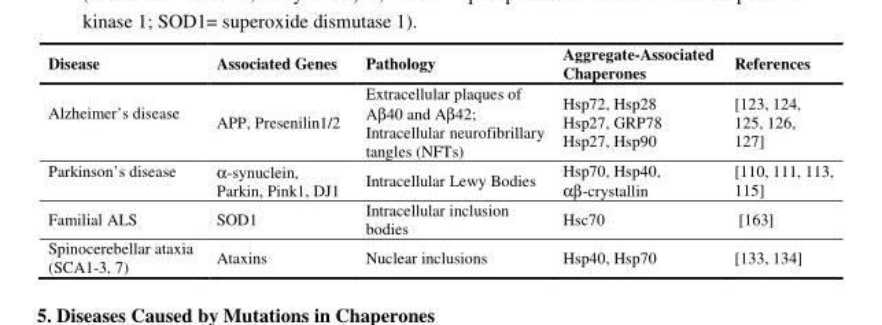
<table><thead><tr><td>Disease</td><td>Associated Genes</td><td>Pathology</td><td>Aggregate-Associated Chaperones</td><td>References</td></tr></thead><tbody><tr><td rowspan="3">Alzheimer’s disease</td><td rowspan="3">APP, Presenilin1/2</td><td rowspan="3">Extracellular plaques of Aβ40 and Aβ42; Intracellular neurofibrillary tangles (NFTs)</td><td>Hsp72, Hsp28</td><td rowspan="3">[123, 124, 125, 126, 127]</td></tr><tr><td>Hsp27, GRP78</td></tr><tr><td>Hsp27, Hsp90</td></tr><tr><td>Parkinson’s disease</td><td>α-synuclein, Parkin, Pink1, DJ1</td><td>Intracellular Lewy Bodies</td><td>Hsp70, Hsp40, αβ-crystallin</td><td>[110, 111, 113, 115]</td></tr><tr><td>Familial ALS</td><td>SOD1</td><td>Intracellular inclusion bodies</td><td>Hsc70</td><td>[163]</td></tr><tr><td>Spinocerebellar ataxia (SCA1-3, 7)</td><td>Ataxins</td><td>Nuclear inclusions</td><td>Hsp40, Hsp70</td><td>[133, 134]</td></tr></tbody></table>